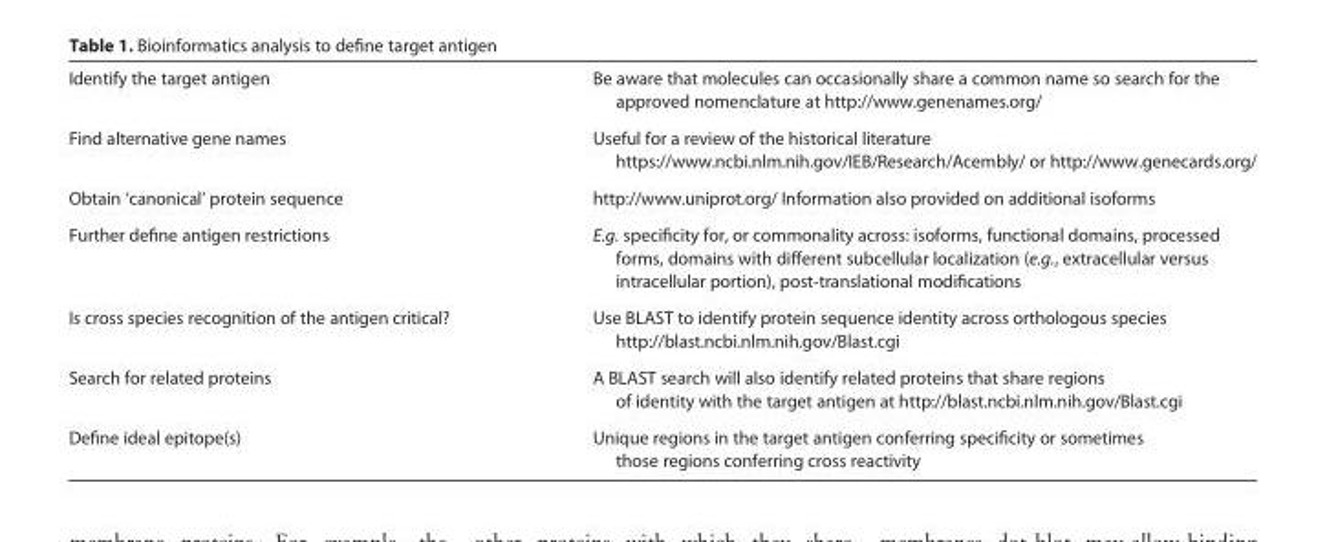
<table><tbody><tr><td>Identify the target antigen</td><td>Be aware that molecules can occasionally share a common name so search for the approved nomenclature at http://www.genenames.org/</td></tr><tr><td>Find alternative gene names</td><td>Useful for a review of the historical literature https://www.ncbi.nlm.nih.gov/IEB/Research/Acembly/ or http://www.genecards.org/</td></tr><tr><td>Obtain ‘canonical’ protein sequence</td><td>http://www.uniprot.org/ Information also provided on additional isoforms</td></tr><tr><td>Further define antigen restrictions</td><td>E.g. specificity for, or commonality across: isoforms, functional domains, processed forms, domains with different subcellular localization (e.g., extracellular versus intracellular portion), post-translational modifications</td></tr><tr><td>Is cross species recognition of the antigen critical?</td><td>Use BLAST to identify protein sequence identity across orthologous species http://blast.ncbi.nlm.nih.gov/Blast.cgi</td></tr><tr><td>Search for related proteins</td><td>A BLAST search will also identify related proteins that share regions of identity with the target antigen at http://blast.ncbi.nlm.nih.gov/Blast.cgi</td></tr><tr><td>Define ideal epitope(s)</td><td>Unique regions in the target antigen conferring specificity or sometimes those regions conferring cross reactivity</td></tr></tbody></table>